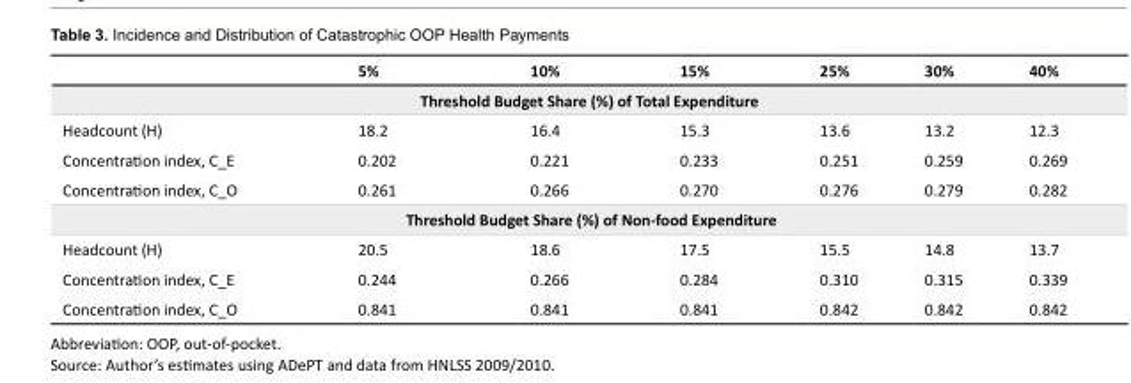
<table><thead><tr><td></td><td>5%</td><td>10%</td><td>15%</td><td>25%</td><td>30%</td><td>40%</td></tr></thead><tbody><tr><td colspan="7">Threshold Budget Share (%) of Total Expenditure</td></tr><tr><td>Headcount (H)</td><td>18.2</td><td>16.4</td><td>15.3</td><td>13.6</td><td>13.2</td><td>12.3</td></tr><tr><td>Concentration index, C_E</td><td>0.202</td><td>0.221</td><td>0.233</td><td>0.251</td><td>0.259</td><td>0.269</td></tr><tr><td>Concentration index, C_O</td><td>0.261</td><td>0.266</td><td>0.270</td><td>0.276</td><td>0.279</td><td>0.282</td></tr><tr><td colspan="7">Threshold Budget Share (%) of Non-food Expenditure</td></tr><tr><td>Headcount (H)</td><td>20.5</td><td>18.6</td><td>17.5</td><td>15.5</td><td>14.8</td><td>13.7</td></tr><tr><td>Concentration index, C_E</td><td>0.244</td><td>0.266</td><td>0.284</td><td>0.310</td><td>0.315</td><td>0.339</td></tr><tr><td>Concentration index, C_O</td><td>0.841</td><td>0.841</td><td>0.841</td><td>0.842</td><td>0.842</td><td>0.842</td></tr></tbody></table>